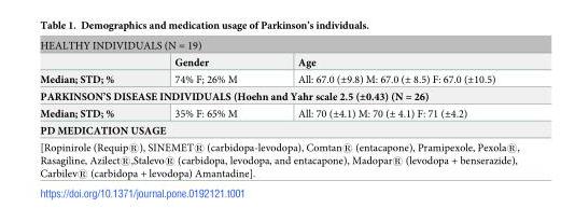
<table><tbody><tr><td colspan="3">HEALTHY INDIVIDUALS (N = 19)</td></tr><tr><td></td><td>Gender</td><td>Age</td></tr><tr><td>Median; STD; %</td><td>74% F; 26% M</td><td>All: 67.0 (±9.8) M: 67.0 (± 8.5) F: 67.0 (±10.5)</td></tr><tr><td colspan="3">PARKINSON’S DISEASE INDIVIDUALS (Hoehn and Yahr scale 2.5 (±0.43) (N = 26)</td></tr><tr><td>Median; STD; %</td><td>35% F: 65% M</td><td>All: 70 (±4.1) M: 70 (± 4.1) F: 71 (±4.2)</td></tr><tr><td colspan="3">PD MEDICATION USAGE</td></tr><tr><td colspan="3">[Ropinirole (Requip®), SINEMET® (carbidopa-levodopa), Comtan® (entacapone), Pramipexole, Pexola®, Rasagiline, Azilect®,Stalevo® (carbidopa, levodopa, and entacapone), Madopar® (levodopa + benserazide), Carbilev® (carbidopa + levodopa) Amantadine].</td></tr></tbody></table>